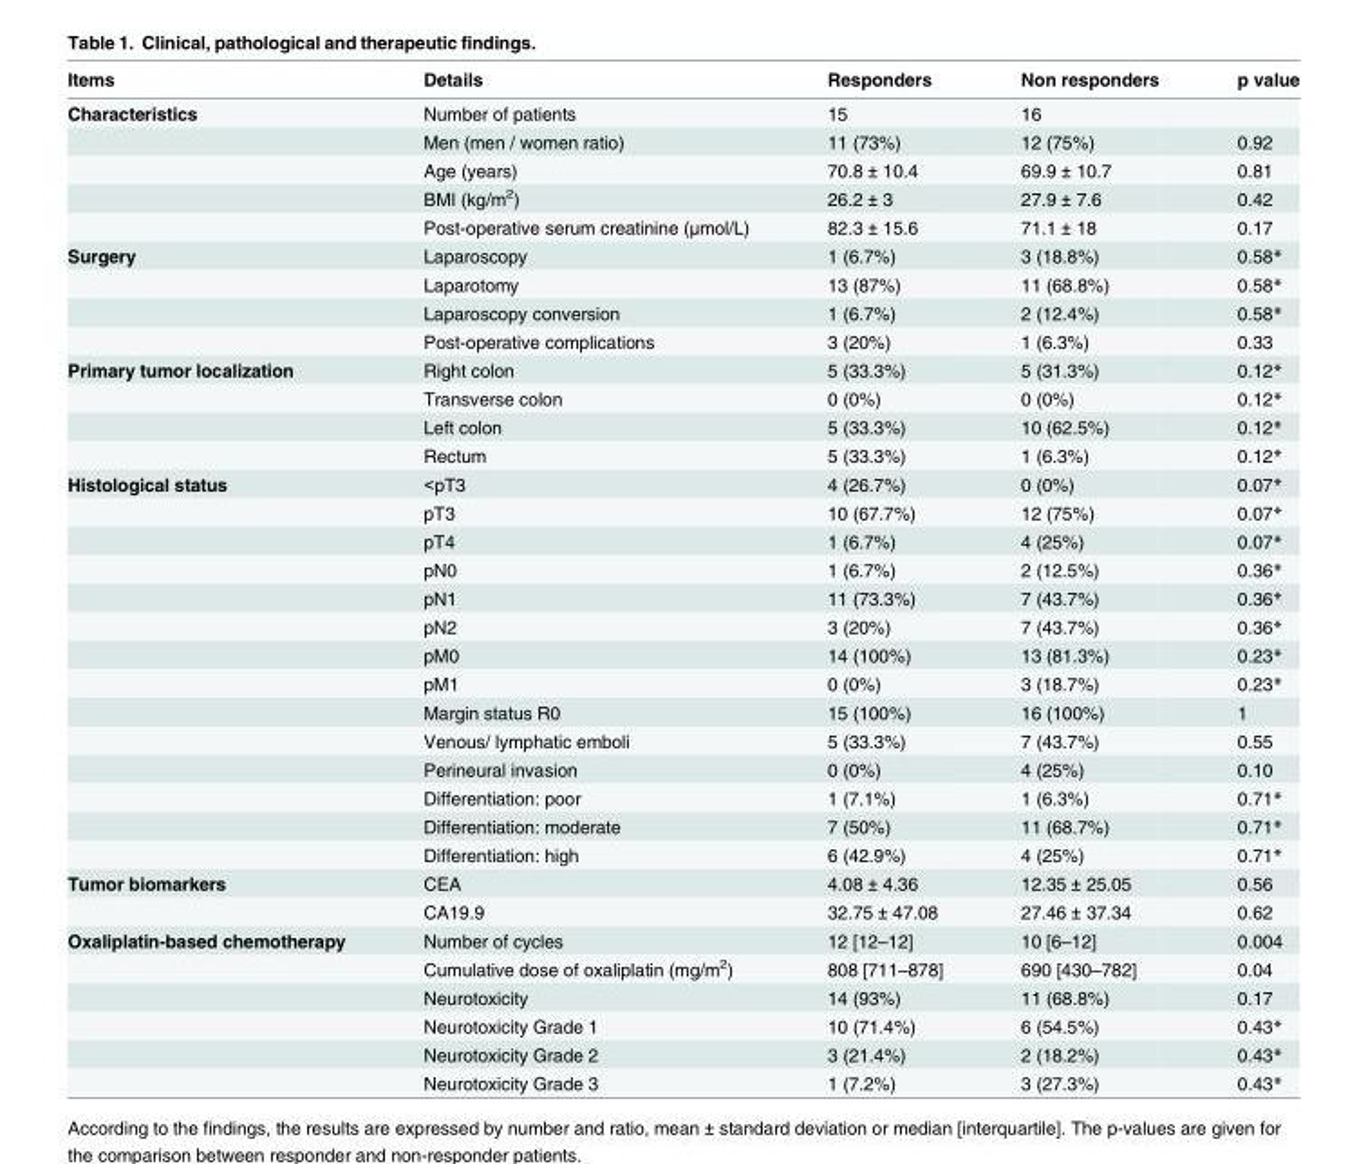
<table><thead><tr><td>Items</td><td>Details</td><td>Responders</td><td>Non responders</td><td>p value</td></tr></thead><tbody><tr><td rowspan="5">Characteristics</td><td>Number of patients</td><td>15</td><td>16</td><td></td></tr><tr><td>Men (men / women ratio)</td><td>11 (73%)</td><td>12 (75%)</td><td>0.92</td></tr><tr><td>Age (years)</td><td>70.8 ± 10.4</td><td>69.9 ± 10.7</td><td>0.81</td></tr><tr><td>BMI (kg/m<sup>2</sup>)</td><td>26.2 ± 3</td><td>27.9 ± 7.6</td><td>0.42</td></tr><tr><td>Post-operative serum creatinine (μmol/L)</td><td>82.3 ± 15.6</td><td>71.1 ± 18</td><td>0.17</td></tr><tr><td rowspan="4">Surgery</td><td>Laparoscopy</td><td>1 (6.7%)</td><td>3 (18.8%)</td><td>0.58*</td></tr><tr><td>Laparotomy</td><td>13 (87%)</td><td>11 (68.8%)</td><td>0.58*</td></tr><tr><td>Laparoscopy conversion</td><td>1 (6.7%)</td><td>2 (12.4%)</td><td>0.58*</td></tr><tr><td>Post-operative complications</td><td>3 (20%)</td><td>1 (6.3%)</td><td>0.33</td></tr><tr><td rowspan="4">Primary tumor localization</td><td>Right colon</td><td>5 (33.3%)</td><td>5 (31.3%)</td><td>0.12*</td></tr><tr><td>Transverse colon</td><td>0 (0%)</td><td>0 (0%)</td><td>0.12*</td></tr><tr><td>Left colon</td><td>5 (33.3%)</td><td>10 (62.5%)</td><td>0.12*</td></tr><tr><td>Rectum</td><td>5 (33.3%)</td><td>1 (6.3%)</td><td>0.12*</td></tr><tr><td rowspan="14">Histological status</td><td>&lt;pT3</td><td>4 (26.7%)</td><td>0 (0%)</td><td>0.07*</td></tr><tr><td>pT3</td><td>10 (67.7%)</td><td>12 (75%)</td><td>0.07*</td></tr><tr><td>pT4</td><td>1 (6.7%)</td><td>4 (25%)</td><td>0.07*</td></tr><tr><td>pN0</td><td>1 (6.7%)</td><td>2 (12.5%)</td><td>0.36*</td></tr><tr><td>pN1</td><td>11 (73.3%)</td><td>7 (43.7%)</td><td>0.36*</td></tr><tr><td>pN2</td><td>3 (20%)</td><td>7 (43.7%)</td><td>0.36*</td></tr><tr><td>pM0</td><td>14 (100%)</td><td>13 (81.3%)</td><td>0.23*</td></tr><tr><td>pM1</td><td>0 (0%)</td><td>3 (18.7%)</td><td>0.23*</td></tr><tr><td>Margin status R0</td><td>15 (100%)</td><td>16 (100%)</td><td>1</td></tr><tr><td>Venous/ lymphatic emboli</td><td>5 (33.3%)</td><td>7 (43.7%)</td><td>0.55</td></tr><tr><td>Perineural invasion</td><td>0 (0%)</td><td>4 (25%)</td><td>0.10</td></tr><tr><td>Differentiation: poor</td><td>1 (7.1%)</td><td>1 (6.3%)</td><td>0.71*</td></tr><tr><td>Differentiation: moderate</td><td>7 (50%)</td><td>11 (68.7%)</td><td>0.71*</td></tr><tr><td>Differentiation: high</td><td>6 (42.9%)</td><td>4 (25%)</td><td>0.71*</td></tr><tr><td rowspan="2">Tumor biomarkers</td><td>CEA</td><td>4.08 ± 4.36</td><td>12.35 ± 25.05</td><td>0.56</td></tr><tr><td>CA19.9</td><td>32.75 ± 47.08</td><td>27.46 ± 37.34</td><td>0.62</td></tr><tr><td rowspan="6">Oxaliplatin-based chemotherapy</td><td>Number of cycles</td><td>12 [12–12]</td><td>10 [6–12]</td><td>0.004</td></tr><tr><td>Cumulative dose of oxaliplatin (mg/m<sup>2</sup>)</td><td>808 [711–878]</td><td>690 [430–782]</td><td>0.04</td></tr><tr><td>Neurotoxicity</td><td>14 (93%)</td><td>11 (68.8%)</td><td>0.17</td></tr><tr><td>Neurotoxicity Grade 1</td><td>10 (71.4%)</td><td>6 (54.5%)</td><td>0.43*</td></tr><tr><td>Neurotoxicity Grade 2</td><td>3 (21.4%)</td><td>2 (18.2%)</td><td>0.43*</td></tr><tr><td>Neurotoxicity Grade 3</td><td>1 (7.2%)</td><td>3 (27.3%)</td><td>0.43*</td></tr></tbody></table>